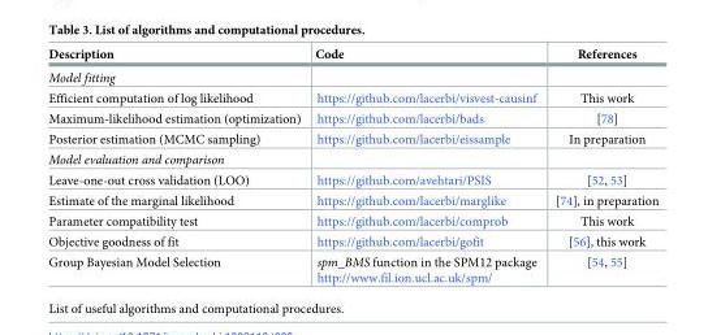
<table><thead><tr><td>Description</td><td>Code</td><td>References</td></tr></thead><tbody><tr><td colspan="3">Model fitting</td></tr><tr><td>Efficient computation of log likelihood</td><td>https://github.com/lacerbi/visvest-causinf</td><td>This work</td></tr><tr><td>Maximum-likelihood estimation (optimization)</td><td>https://github.com/lacerbi/bads</td><td>[78]</td></tr><tr><td>Posterior estimation (MCMC sampling)</td><td>https://github.com/lacerbi/eissample</td><td>In preparation</td></tr><tr><td colspan="3">Model evaluation and comparison</td></tr><tr><td>Leave-one-out cross validation (LOO)</td><td>https://github.com/avehtari/PSIS</td><td>[52, 53]</td></tr><tr><td>Estimate of the marginal likelihood</td><td>https://github.com/lacerbi/marglike</td><td>[74], in preparation</td></tr><tr><td>Parameter compatibility test</td><td>https://github.com/lacerbi/comprob</td><td>This work</td></tr><tr><td>Objective goodness of fit</td><td>https://github.com/lacerbi/gofit</td><td>[56], this work</td></tr><tr><td>Group Bayesian Model Selection</td><td>spm_BMS function in the SPM12 package http://www.fil.ion.ucl.ac.uk/spm/</td><td>[54, 55]</td></tr></tbody></table>